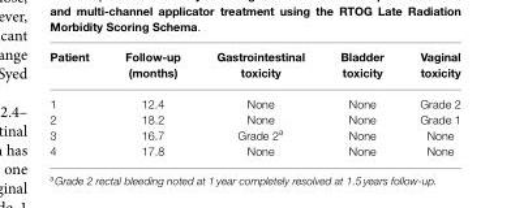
<table><thead><tr><td>Patient</td><td>Follow-up (months)</td><td>Gastrointestinal toxicity</td><td>Bladder toxicity</td><td>Vaginal toxicity</td></tr></thead><tbody><tr><td>1</td><td>12.4</td><td>None</td><td>None</td><td>Grade 2</td></tr><tr><td>2</td><td>18.2</td><td>None</td><td>None</td><td>Grade 1</td></tr><tr><td>3</td><td>16.7</td><td>Grade 2<sup>a</sup></td><td>None</td><td>None</td></tr><tr><td>4</td><td>17.8</td><td>None</td><td>None</td><td>None</td></tr></tbody></table>